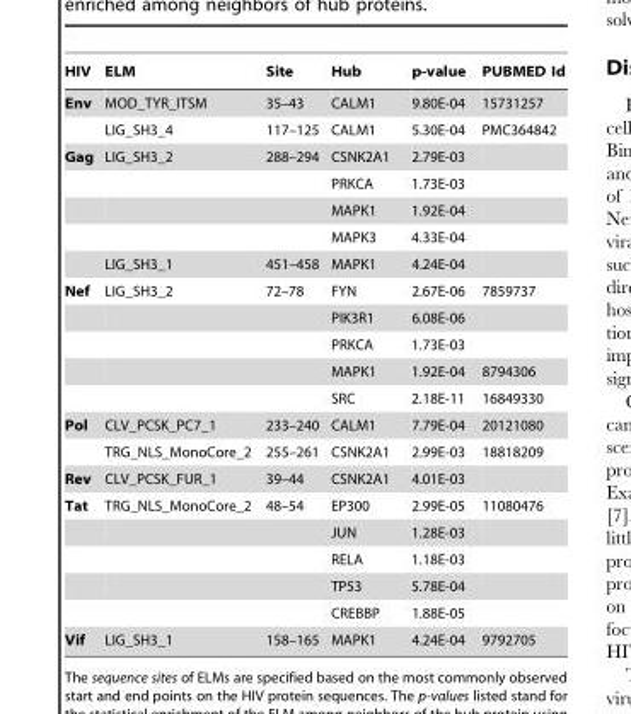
<table><thead><tr><td>HIV</td><td>ELM</td><td>Site</td><td>Hub</td><td>p-value</td><td>PUBMED Id</td></tr></thead><tbody><tr><td rowspan="2">Env</td><td>MOD_TYR_ITSM</td><td>35–43</td><td>CALM1</td><td>9.80E-04</td><td>15731257</td></tr><tr><td>LIG_SH3_4</td><td>117–125</td><td>CALM1</td><td>5.30E-04</td><td>PMC364842</td></tr><tr><td rowspan="5">Gag</td><td>LIG_SH3_2</td><td>288–294</td><td>CSNK2A1</td><td>2.79E-03</td><td></td></tr><tr><td></td><td></td><td>PRKCA</td><td>1.73E-03</td><td></td></tr><tr><td></td><td></td><td>MAPK1</td><td>1.92E-04</td><td></td></tr><tr><td></td><td></td><td>MAPK3</td><td>4.33E-04</td><td></td></tr><tr><td>LIG_SH3_1</td><td>451–458</td><td>MAPK1</td><td>4.24E-04</td><td></td></tr><tr><td rowspan="5">Nef</td><td>LIG_SH3_2</td><td>72–78</td><td>FYN</td><td>2.67E-06</td><td>7859737</td></tr><tr><td></td><td></td><td>PIK3R1</td><td>6.08E-06</td><td></td></tr><tr><td></td><td></td><td>PRKCA</td><td>1.73E-03</td><td></td></tr><tr><td></td><td></td><td>MAPK1</td><td>1.92E-04</td><td>8794306</td></tr><tr><td></td><td></td><td>SRC</td><td>2.18E-11</td><td>16849330</td></tr><tr><td rowspan="2">Pol</td><td>CLV_PCSK_PC7_1</td><td>233–240</td><td>CALM1</td><td>7.79E-04</td><td>20121080</td></tr><tr><td>TRG_NLS_MonoCore_2</td><td>255–261</td><td>CSNK2A1</td><td>2.99E-03</td><td>18818209</td></tr><tr><td>Rev</td><td>CLV_PCSK_FUR_1</td><td>39–44</td><td>CSNK2A1</td><td>4.01E-03</td><td></td></tr><tr><td rowspan="5">Tat</td><td>TRG_NLS_MonoCore_2</td><td>48–54</td><td>EP300</td><td>2.99E-05</td><td>11080476</td></tr><tr><td></td><td></td><td>JUN</td><td>1.28E-03</td><td></td></tr><tr><td></td><td></td><td>RELA</td><td>1.18E-03</td><td></td></tr><tr><td></td><td></td><td>TP53</td><td>5.78E-04</td><td></td></tr><tr><td></td><td></td><td>CREBBP</td><td>1.88E-05</td><td></td></tr><tr><td>Vif</td><td>LIG_SH3_1</td><td>158–165</td><td>MAPK1</td><td>4.24E-04</td><td>9792705</td></tr></tbody></table>